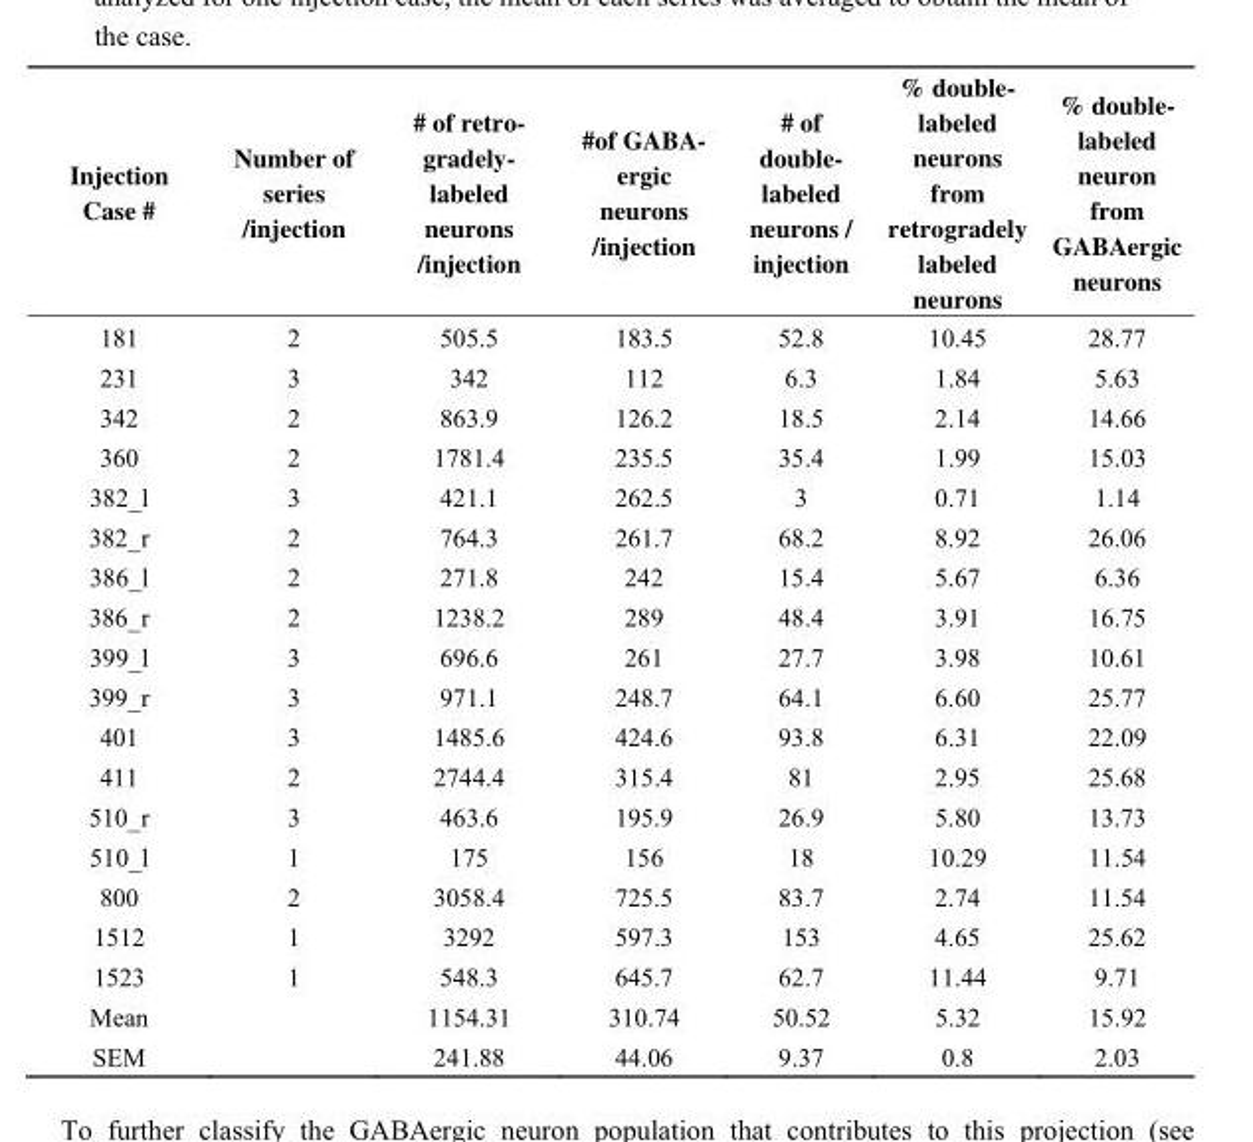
<table><thead><tr><td>Injection Case #</td><td>Number of series /injection</td><td># of retro- gradely- labeled neurons /injection</td><td>#of GABA- ergic neurons /injection</td><td># of double- labeled neurons / injection</td><td>% double- labeled neurons from retrogradely labeled neurons</td><td>% double- labeled neuron from GABAergic neurons</td></tr></thead><tbody><tr><td>181</td><td>2</td><td>505.5</td><td>183.5</td><td>52.8</td><td>10.45</td><td>28.77</td></tr><tr><td>231</td><td>3</td><td>342</td><td>112</td><td>6.3</td><td>1.84</td><td>5.63</td></tr><tr><td>342</td><td>2</td><td>863.9</td><td>126.2</td><td>18.5</td><td>2.14</td><td>14.66</td></tr><tr><td>360</td><td>2</td><td>1781.4</td><td>235.5</td><td>35.4</td><td>1.99</td><td>15.03</td></tr><tr><td>382_l</td><td>3</td><td>421.1</td><td>262.5</td><td>3</td><td>0.71</td><td>1.14</td></tr><tr><td>382_r</td><td>2</td><td>764.3</td><td>261.7</td><td>68.2</td><td>8.92</td><td>26.06</td></tr><tr><td>386_l</td><td>2</td><td>271.8</td><td>242</td><td>15.4</td><td>5.67</td><td>6.36</td></tr><tr><td>386_r</td><td>2</td><td>1238.2</td><td>289</td><td>48.4</td><td>3.91</td><td>16.75</td></tr><tr><td>399_l</td><td>3</td><td>696.6</td><td>261</td><td>27.7</td><td>3.98</td><td>10.61</td></tr><tr><td>399_r</td><td>3</td><td>971.1</td><td>248.7</td><td>64.1</td><td>6.60</td><td>25.77</td></tr><tr><td>401</td><td>3</td><td>1485.6</td><td>424.6</td><td>93.8</td><td>6.31</td><td>22.09</td></tr><tr><td>411</td><td>2</td><td>2744.4</td><td>315.4</td><td>81</td><td>2.95</td><td>25.68</td></tr><tr><td>510_r</td><td>3</td><td>463.6</td><td>195.9</td><td>26.9</td><td>5.80</td><td>13.73</td></tr><tr><td>510_l</td><td>1</td><td>175</td><td>156</td><td>18</td><td>10.29</td><td>11.54</td></tr><tr><td>800</td><td>2</td><td>3058.4</td><td>725.5</td><td>83.7</td><td>2.74</td><td>11.54</td></tr><tr><td>1512</td><td>1</td><td>3292</td><td>597.3</td><td>153</td><td>4.65</td><td>25.62</td></tr><tr><td>1523</td><td>1</td><td>548.3</td><td>645.7</td><td>62.7</td><td>11.44</td><td>9.71</td></tr><tr><td>Mean</td><td></td><td>1154.31</td><td>310.74</td><td>50.52</td><td>5.32</td><td>15.92</td></tr><tr><td>SEM</td><td></td><td>241.88</td><td>44.06</td><td>9.37</td><td>0.8</td><td>2.03</td></tr></tbody></table>